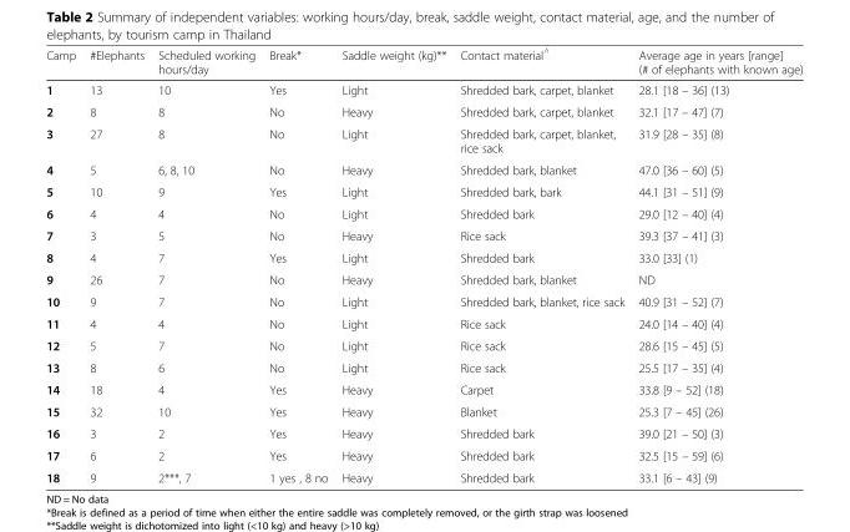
<table><thead><tr><td>Camp</td><td>#Elephants</td><td>Scheduled working hours/day</td><td>Break*</td><td>Saddle weight (kg)**</td><td>Contact material<sup>^</sup></td><td>Average age in years [range] (# of elephants with known age)</td></tr></thead><tbody><tr><td>1</td><td>13</td><td>10</td><td>Yes</td><td>Light</td><td>Shredded bark, carpet, blanket</td><td>28.1 [18 – 36] (13)</td></tr><tr><td>2</td><td>8</td><td>8</td><td>No</td><td>Heavy</td><td>Shredded bark, carpet, blanket</td><td>32.1 [17 – 47] (7)</td></tr><tr><td>3</td><td>27</td><td>8</td><td>No</td><td>Light</td><td>Shredded bark, carpet, blanket, rice sack</td><td>31.9 [28 – 35] (8)</td></tr><tr><td>4</td><td>5</td><td>6, 8, 10</td><td>No</td><td>Heavy</td><td>Shredded bark, blanket</td><td>47.0 [36 – 60] (5)</td></tr><tr><td>5</td><td>10</td><td>9</td><td>Yes</td><td>Light</td><td>Shredded bark, bark</td><td>44.1 [31 – 51] (9)</td></tr><tr><td>6</td><td>4</td><td>4</td><td>No</td><td>Light</td><td>Shredded bark</td><td>29.0 [12 – 40] (4)</td></tr><tr><td>7</td><td>3</td><td>5</td><td>No</td><td>Heavy</td><td>Rice sack</td><td>39.3 [37 – 41] (3)</td></tr><tr><td>8</td><td>4</td><td>7</td><td>Yes</td><td>Light</td><td>Shredded bark</td><td>33.0 [33] (1)</td></tr><tr><td>9</td><td>26</td><td>7</td><td>No</td><td>Heavy</td><td>Shredded bark, blanket</td><td>ND</td></tr><tr><td>10</td><td>9</td><td>7</td><td>No</td><td>Light</td><td>Shredded bark, blanket, rice sack</td><td>40.9 [31 – 52] (7)</td></tr><tr><td>11</td><td>4</td><td>4</td><td>No</td><td>Light</td><td>Rice sack</td><td>24.0 [14 – 40] (4)</td></tr><tr><td>12</td><td>5</td><td>7</td><td>No</td><td>Light</td><td>Rice sack</td><td>28.6 [15 – 45] (5)</td></tr><tr><td>13</td><td>8</td><td>6</td><td>No</td><td>Light</td><td>Rice sack</td><td>25.5 [17 – 35] (4)</td></tr><tr><td>14</td><td>18</td><td>4</td><td>Yes</td><td>Heavy</td><td>Carpet</td><td>33.8 [9 – 52] (18)</td></tr><tr><td>15</td><td>32</td><td>10</td><td>Yes</td><td>Heavy</td><td>Blanket</td><td>25.3 [7 – 45] (26)</td></tr><tr><td>16</td><td>3</td><td>2</td><td>Yes</td><td>Heavy</td><td>Shredded bark</td><td>39.0 [21 – 50] (3)</td></tr><tr><td>17</td><td>6</td><td>2</td><td>Yes</td><td>Heavy</td><td>Shredded bark</td><td>32.5 [15 – 59] (6)</td></tr><tr><td>18</td><td>9</td><td>2***, 7</td><td>1 yes , 8 no</td><td>Heavy</td><td>Shredded bark</td><td>33.1 [6 – 43] (9)</td></tr></tbody></table>